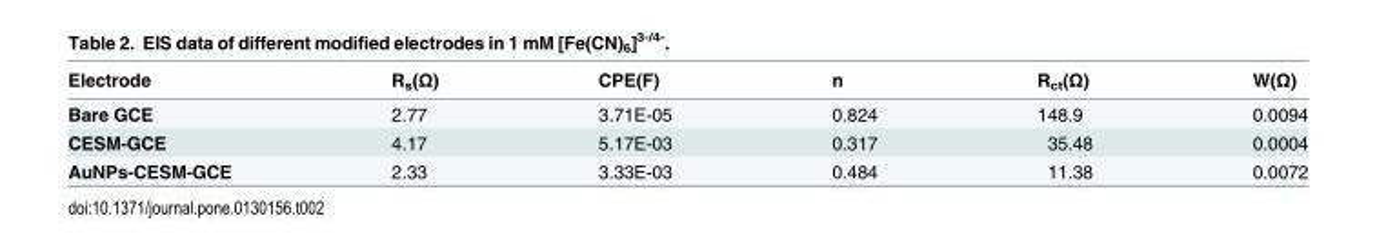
<table><thead><tr><td>Electrode</td><td>R<sub>s</sub>(Ω)</td><td>CPE(F)</td><td>n</td><td>R<sub>ct</sub>(Ω)</td><td>W(Ω)</td></tr></thead><tbody><tr><td>Bare GCE</td><td>2.77</td><td>3.71E-05</td><td>0.824</td><td>148.9</td><td>0.0094</td></tr><tr><td>CESM-GCE</td><td>4.17</td><td>5.17E-03</td><td>0.317</td><td>35.48</td><td>0.0004</td></tr><tr><td>AuNPs-CESM-GCE</td><td>2.33</td><td>3.33E-03</td><td>0.484</td><td>11.38</td><td>0.0072</td></tr></tbody></table>